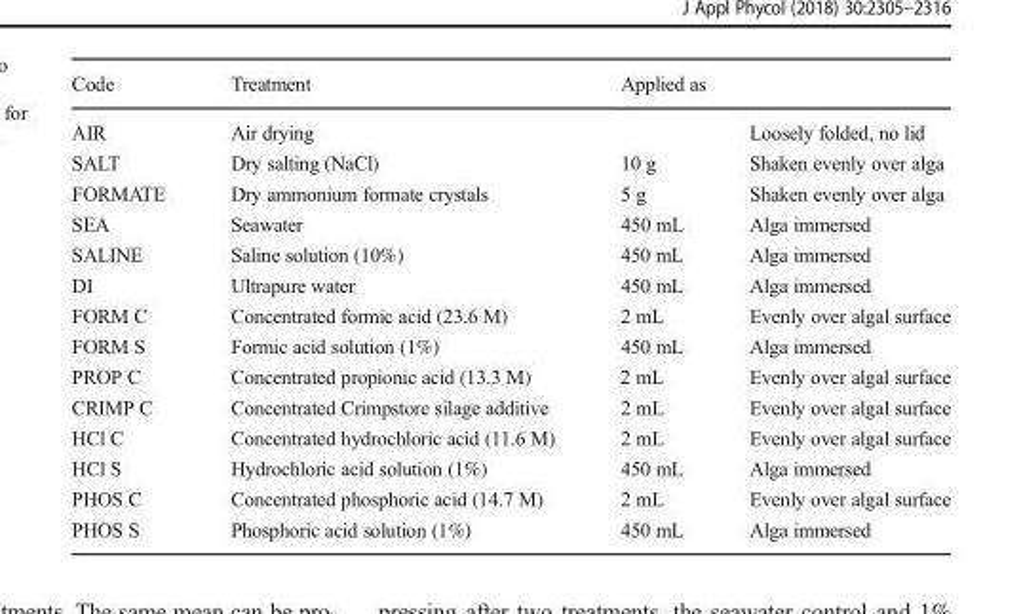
<table><thead><tr><td rowspan="2">Code AIR</td><td rowspan="2">Treatment Air drying</td><td colspan="2">Applied as</td></tr><tr><td></td><td>Loosely folded, no lid</td></tr></thead><tbody><tr><td>SALT</td><td>Dry salting (NaCl)</td><td>10 g</td><td>Shaken evenly over alga</td></tr><tr><td>FORMATE</td><td>Dry ammonium formate crystals</td><td>5 g</td><td>Shaken evenly over alga</td></tr><tr><td>SEA</td><td>Seawater</td><td>450 mL</td><td>Alga immersed</td></tr><tr><td>SALINE</td><td>Saline solution (10%)</td><td>450 mL</td><td>Alga immersed</td></tr><tr><td>DI</td><td>Ultrapure water</td><td>450 mL</td><td>Alga immersed</td></tr><tr><td>FORM C</td><td>Concentrated formic acid (23.6 M)</td><td>2 mL</td><td>Evenly over algal surface</td></tr><tr><td>FORM S</td><td>Formic acid solution (1%)</td><td>450 mL</td><td>Alga immersed</td></tr><tr><td>PROP C</td><td>Concentrated propionic acid (13.3 M)</td><td>2 mL</td><td>Evenly over algal surface</td></tr><tr><td>CRIMP C</td><td>Concentrated Crimpstore silage additive</td><td>2 mL</td><td>Evenly over algal surface</td></tr><tr><td>HCl C</td><td>Concentrated hydrochloric acid (11.6 M)</td><td>2 mL</td><td>Evenly over algal surface</td></tr><tr><td>HCl S</td><td>Hydrochloric acid solution (1%)</td><td>450 mL</td><td>Alga immersed</td></tr><tr><td>PHOS C</td><td>Concentrated phosphoric acid (14.7 M)</td><td>2 mL</td><td>Evenly over algal surface</td></tr><tr><td>PHOS S</td><td>Phosphoric acid solution (1%)</td><td>450 mL</td><td>Alga immersed</td></tr></tbody></table>